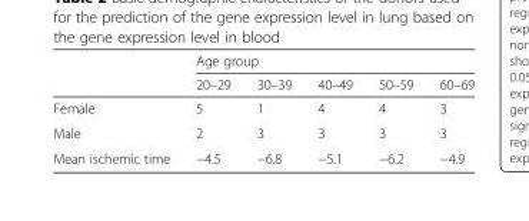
<table><thead><tr><td rowspan="2"></td><td colspan="5">Age group</td></tr><tr><td>20–29</td><td>30–39</td><td>40–49</td><td>50–59</td><td>60–69</td></tr></thead><tbody><tr><td>Female</td><td>5</td><td>1</td><td>4</td><td>4</td><td>3</td></tr><tr><td>Male</td><td>2</td><td>3</td><td>3</td><td>3</td><td>3</td></tr><tr><td>Mean ischemic time</td><td>−4.5</td><td>−6.8</td><td>−5.1</td><td>−6.2</td><td>−4.9</td></tr></tbody></table>